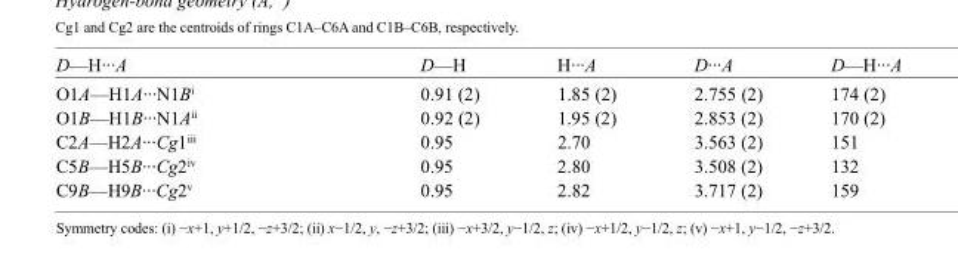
<table><tbody><tr><td>D—H···A</td><td>D—H</td><td>H···A</td><td>D···A</td><td>D—H···A</td></tr><tr><td>O1A—H1A···N1B<sup>i</sup></td><td>0.91 (2)</td><td>1.85 (2)</td><td>2.755 (2)</td><td>174 (2)</td></tr><tr><td>O1B—H1B···N1A<sup>ii</sup></td><td>0.92 (2)</td><td>1.95 (2)</td><td>2.853 (2)</td><td>170 (2)</td></tr><tr><td>C2A—H2A···Cg1<sup>iii</sup></td><td>0.95</td><td>2.70</td><td>3.563 (2)</td><td>151</td></tr><tr><td>C5B—H5B···Cg2<sup>iv</sup></td><td>0.95</td><td>2.80</td><td>3.508 (2)</td><td>132</td></tr><tr><td>C9B—H9B···Cg2<sup>v</sup></td><td>0.95</td><td>2.82</td><td>3.717 (2)</td><td>159</td></tr></tbody></table>